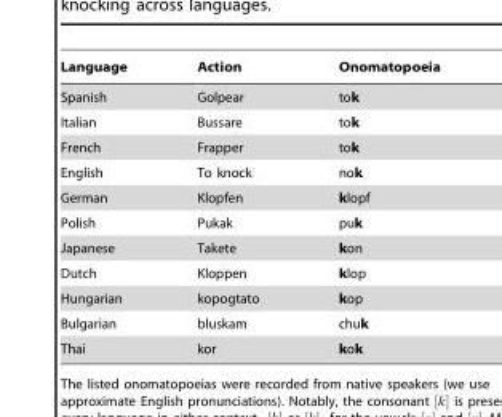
<table><thead><tr><td>Language</td><td>Action</td><td>Onomatopoeia</td></tr></thead><tbody><tr><td>Spanish</td><td>Golpear</td><td>tok</td></tr><tr><td>Italian</td><td>Bussare</td><td>tok</td></tr><tr><td>French</td><td>Frapper</td><td>tok</td></tr><tr><td>English</td><td>To knock</td><td>nok</td></tr><tr><td>German</td><td>Klopfen</td><td>klopf</td></tr><tr><td>Polish</td><td>Pukak</td><td>puk</td></tr><tr><td>Japanese</td><td>Takete</td><td>kon</td></tr><tr><td>Dutch</td><td>Kloppen</td><td>klop</td></tr><tr><td>Hungarian</td><td>kopogtato</td><td>kop</td></tr><tr><td>Bulgarian</td><td>bluskam</td><td>chuk</td></tr><tr><td>Thai</td><td>kor</td><td>kok</td></tr></tbody></table>